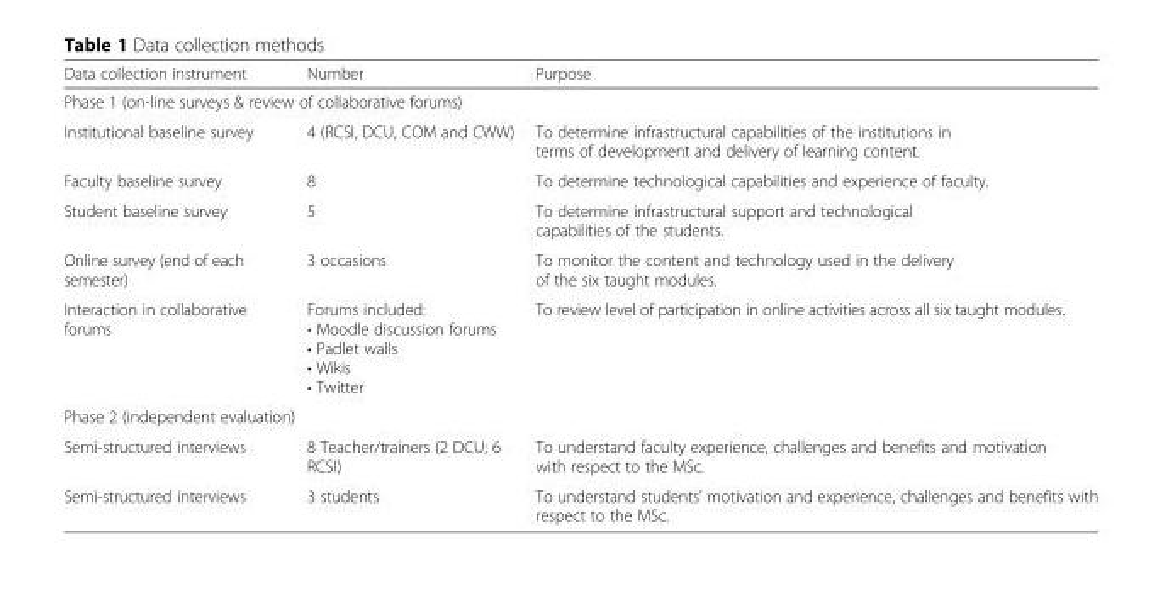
<table><thead><tr><td>Data collection instrument</td><td>Number</td><td>Purpose</td></tr></thead><tbody><tr><td colspan="3">Phase 1 (on-line surveys &amp; review of collaborative forums)</td></tr><tr><td>Institutional baseline survey</td><td>4 (RCSI, DCU, COM and CWW)</td><td>To determine infrastructural capabilities of the institutions in terms of development and delivery of learning content.</td></tr><tr><td>Faculty baseline survey</td><td>8</td><td>To determine technological capabilities and experience of faculty.</td></tr><tr><td>Student baseline survey</td><td>5</td><td>To determine infrastructural support and technological capabilities of the students.</td></tr><tr><td>Online survey (end of each semester)</td><td>3 occasions</td><td>To monitor the content and technology used in the delivery of the six taught modules.</td></tr><tr><td>Interaction in collaborative forums</td><td>Forums included: • Moodle discussion forums • Padlet walls • Wikis • Twitter</td><td>To review level of participation in online activities across all six taught modules.</td></tr><tr><td colspan="3">Phase 2 (independent evaluation)</td></tr><tr><td>Semi-structured interviews</td><td>8 Teacher/trainers (2 DCU; 6 RCSI)</td><td>To understand faculty experience, challenges and benefits and motivation with respect to the MSc.</td></tr><tr><td>Semi-structured interviews</td><td>3 students</td><td>To understand students&#x27; motivation and experience, challenges and benefits with respect to the MSc.</td></tr></tbody></table>